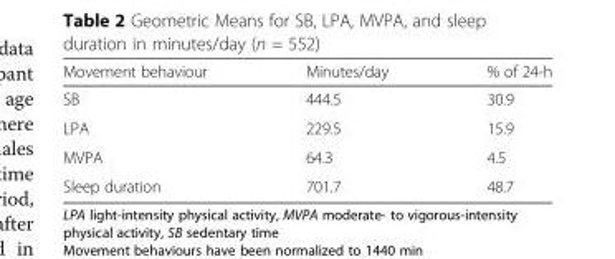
<table><thead><tr><td>Movement behaviour</td><td>Minutes/day</td><td>% of 24-h</td></tr></thead><tbody><tr><td>SB</td><td>444.5</td><td>30.9</td></tr><tr><td>LPA</td><td>229.5</td><td>15.9</td></tr><tr><td>MVPA</td><td>64.3</td><td>4.5</td></tr><tr><td>Sleep duration</td><td>701.7</td><td>48.7</td></tr></tbody></table>